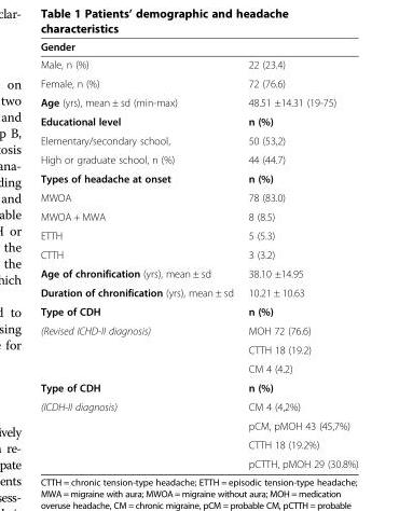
<table><thead><tr><td>Gender</td><td></td></tr></thead><tbody><tr><td>Male, n (%)</td><td>22 (23.4)</td></tr><tr><td>Female, n (%)</td><td>72 (76.6)</td></tr><tr><td>Age (yrs), mean ± sd (min-max)</td><td>48.51 ±14.31 (19-75)</td></tr><tr><td>Educational level</td><td>n (%)</td></tr><tr><td>Elementary/secondary school,</td><td>50 (53,2)</td></tr><tr><td>High or graduate school, n (%)</td><td>44 (44.7)</td></tr><tr><td>Types of headache at onset</td><td>n (%)</td></tr><tr><td>MWOA</td><td>78 (83.0)</td></tr><tr><td>MWOA + MWA</td><td>8 (8.5)</td></tr><tr><td>ETTH</td><td>5 (5.3)</td></tr><tr><td>CTTH</td><td>3 (3.2)</td></tr><tr><td>Age of chronification (yrs), mean ± sd</td><td>38.10 ±14.95</td></tr><tr><td>Duration of chronification (yrs), mean ± sd</td><td>10.21 ± 10.63</td></tr><tr><td>Type of CDH</td><td>n (%)</td></tr><tr><td rowspan="3">(Revised ICHD-II diagnosis)</td><td>MOH 72 (76.6)</td></tr><tr><td>CTTH 18 (19.2)</td></tr><tr><td>CM 4 (4.2)</td></tr><tr><td>Type of CDH</td><td>n (%)</td></tr><tr><td rowspan="4">(ICDH-II diagnosis)</td><td>CM 4 (4,2%)</td></tr><tr><td>pCM, pMOH 43 (45,7%)</td></tr><tr><td>CTTH 18 (19.2%)</td></tr><tr><td>pCTTH, pMOH 29 (30.8%)</td></tr></tbody></table>